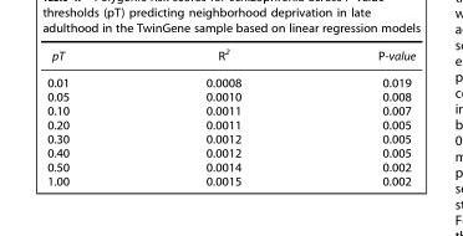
<table><thead><tr><td>pT</td><td>R<sup>2</sup></td><td>P-value</td></tr></thead><tbody><tr><td>0.01</td><td>0.0008</td><td>0.019</td></tr><tr><td>0.05</td><td>0.0010</td><td>0.008</td></tr><tr><td>0.10</td><td>0.0011</td><td>0.007</td></tr><tr><td>0.20</td><td>0.0011</td><td>0.005</td></tr><tr><td>0.30</td><td>0.0012</td><td>0.005</td></tr><tr><td>0.40</td><td>0.0012</td><td>0.005</td></tr><tr><td>0.50</td><td>0.0014</td><td>0.002</td></tr><tr><td>1.00</td><td>0.0015</td><td>0.002</td></tr></tbody></table>